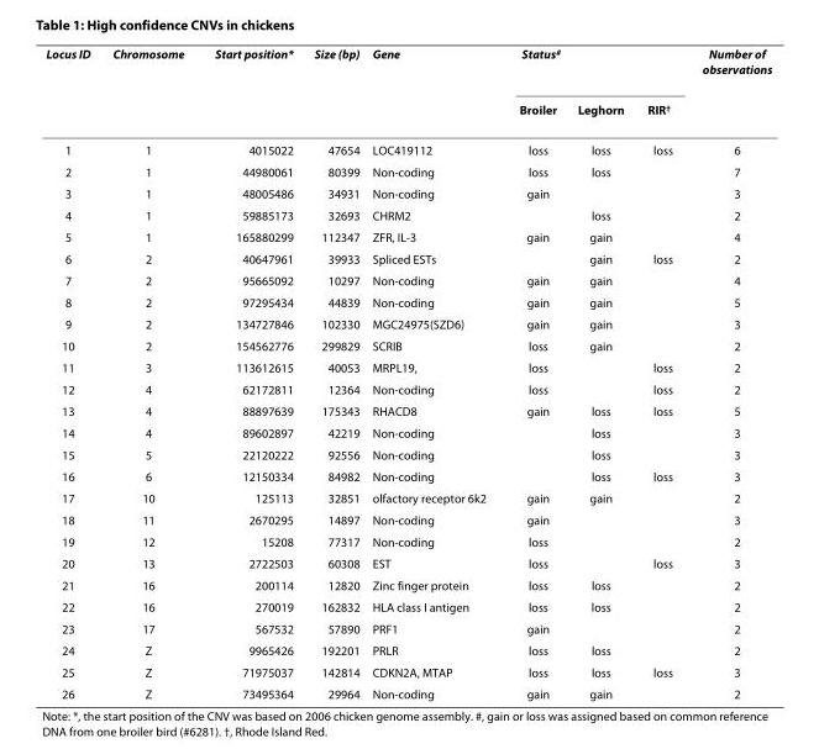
<table><thead><tr><td rowspan="2">Locus ID</td><td rowspan="2">Chromosome</td><td rowspan="2">Start position*</td><td rowspan="2">Size (bp)</td><td rowspan="2">Gene</td><td colspan="3">Status<sup>#</sup></td><td rowspan="2">Number of observations</td></tr><tr><td>Broiler</td><td>Leghorn</td><td>RIR<sup>†</sup></td></tr></thead><tbody><tr><td>1</td><td>1</td><td>4015022</td><td>47654</td><td>LOC419112</td><td>loss</td><td>loss</td><td>loss</td><td>6</td></tr><tr><td>2</td><td>1</td><td>44980061</td><td>80399</td><td>Non-coding</td><td>loss</td><td>loss</td><td></td><td>7</td></tr><tr><td>3</td><td>1</td><td>48005486</td><td>34931</td><td>Non-coding</td><td>gain</td><td></td><td></td><td>3</td></tr><tr><td>4</td><td>1</td><td>59885173</td><td>32693</td><td>CHRM2</td><td></td><td>loss</td><td></td><td>2</td></tr><tr><td>5</td><td>1</td><td>165880299</td><td>112347</td><td>ZFR, IL-3</td><td>gain</td><td>gain</td><td></td><td>4</td></tr><tr><td>6</td><td>2</td><td>40647961</td><td>39933</td><td>Spliced ESTs</td><td></td><td>gain</td><td>loss</td><td>2</td></tr><tr><td>7</td><td>2</td><td>95665092</td><td>10297</td><td>Non-coding</td><td>gain</td><td>gain</td><td></td><td>4</td></tr><tr><td>8</td><td>2</td><td>97295434</td><td>44839</td><td>Non-coding</td><td>gain</td><td>gain</td><td></td><td>5</td></tr><tr><td>9</td><td>2</td><td>134727846</td><td>102330</td><td>MGC24975(SZD6)</td><td>gain</td><td>gain</td><td></td><td>3</td></tr><tr><td>10</td><td>2</td><td>154562776</td><td>299829</td><td>SCRIB</td><td>loss</td><td>gain</td><td></td><td>2</td></tr><tr><td>11</td><td>3</td><td>113612615</td><td>40053</td><td>MRPL19,</td><td>loss</td><td></td><td>loss</td><td>2</td></tr><tr><td>12</td><td>4</td><td>62172811</td><td>12364</td><td>Non-coding</td><td>loss</td><td></td><td>loss</td><td>2</td></tr><tr><td>13</td><td>4</td><td>88897639</td><td>175343</td><td>RHACD8</td><td>gain</td><td>loss</td><td>loss</td><td>5</td></tr><tr><td>14</td><td>4</td><td>89602897</td><td>42219</td><td>Non-coding</td><td></td><td>loss</td><td></td><td>3</td></tr><tr><td>15</td><td>5</td><td>22120222</td><td>92556</td><td>Non-coding</td><td></td><td>loss</td><td></td><td>3</td></tr><tr><td>16</td><td>6</td><td>12150334</td><td>84982</td><td>Non-coding</td><td></td><td>loss</td><td>loss</td><td>3</td></tr><tr><td>17</td><td>10</td><td>125113</td><td>32851</td><td>olfactory receptor 6k2</td><td>gain</td><td>gain</td><td></td><td>2</td></tr><tr><td>18</td><td>11</td><td>2670295</td><td>14897</td><td>Non-coding</td><td>gain</td><td></td><td></td><td>3</td></tr><tr><td>19</td><td>12</td><td>15208</td><td>77317</td><td>Non-coding</td><td>loss</td><td></td><td></td><td>2</td></tr><tr><td>20</td><td>13</td><td>2722503</td><td>60308</td><td>EST</td><td>loss</td><td></td><td>loss</td><td>3</td></tr><tr><td>21</td><td>16</td><td>200114</td><td>12820</td><td>Zinc finger protein</td><td>loss</td><td>loss</td><td></td><td>2</td></tr><tr><td>22</td><td>16</td><td>270019</td><td>162832</td><td>HLA class I antigen</td><td>loss</td><td>loss</td><td></td><td>2</td></tr><tr><td>23</td><td>17</td><td>567532</td><td>57890</td><td>PRF1</td><td>gain</td><td></td><td></td><td>2</td></tr><tr><td>24</td><td>Z</td><td>9965426</td><td>192201</td><td>PRLR</td><td>loss</td><td>loss</td><td></td><td>2</td></tr><tr><td>25</td><td>Z</td><td>71975037</td><td>142814</td><td>CDKN2A, MTAP</td><td>loss</td><td>loss</td><td>loss</td><td>3</td></tr><tr><td>26</td><td>Z</td><td>73495364</td><td>29964</td><td>Non-coding</td><td>gain</td><td>gain</td><td></td><td>2</td></tr></tbody></table>